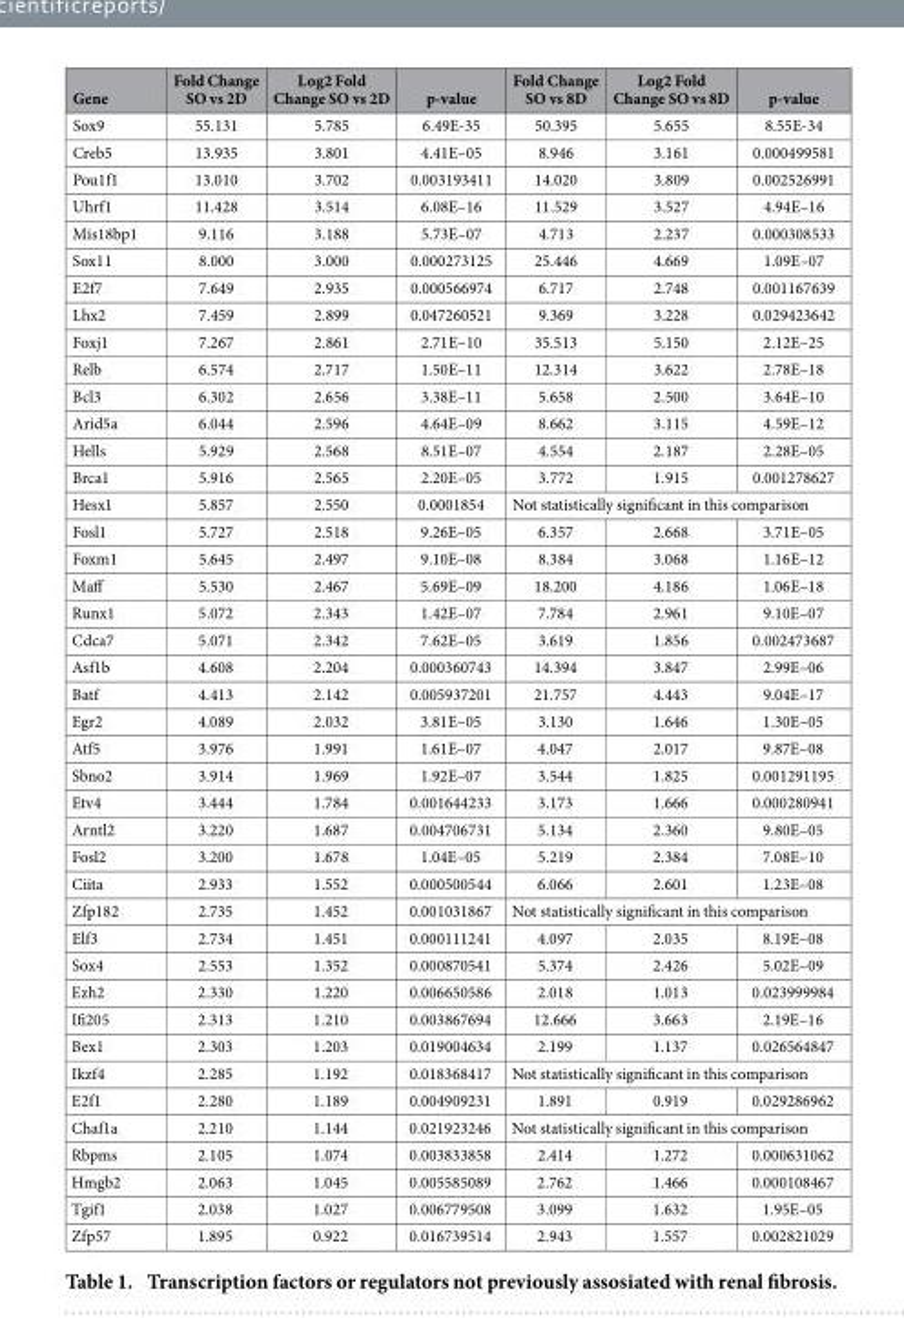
<table><thead><tr><td>Gene</td><td>Fold Change SO vs 2D</td><td>Log2 Fold Change SO vs 2D</td><td>p-value</td><td>Fold Change SO vs 8D</td><td>Log2 Fold Change SO vs 8D</td><td>p-value</td></tr></thead><tbody><tr><td>Sox9</td><td>55.131</td><td>5.785</td><td>6.49E-35</td><td>50.395</td><td>5.655</td><td>8.55E-34</td></tr><tr><td>Creb5</td><td>13.935</td><td>3.801</td><td>4.41E–05</td><td>8.946</td><td>3.161</td><td>0.000499581</td></tr><tr><td>Pou1f1</td><td>13.010</td><td>3.702</td><td>0.003193411</td><td>14.020</td><td>3.809</td><td>0.002526991</td></tr><tr><td>Uhrf1</td><td>11.428</td><td>3.514</td><td>6.08E–16</td><td>11.529</td><td>3.527</td><td>4.94E–16</td></tr><tr><td>Mis18bp1</td><td>9.116</td><td>3.188</td><td>5.73E–07</td><td>4.713</td><td>2.237</td><td>0.000308533</td></tr><tr><td>Sox11</td><td>8.000</td><td>3.000</td><td>0.000273125</td><td>25.446</td><td>4.669</td><td>1.09E–07</td></tr><tr><td>E2f7</td><td>7.649</td><td>2.935</td><td>0.000566974</td><td>6.717</td><td>2.748</td><td>0.001167639</td></tr><tr><td>Lhx2</td><td>7.459</td><td>2.899</td><td>0.047260521</td><td>9.369</td><td>3.228</td><td>0.029423642</td></tr><tr><td>Foxj1</td><td>7.267</td><td>2.861</td><td>2.71E–10</td><td>35.513</td><td>5.150</td><td>2.12E–25</td></tr><tr><td>Relb</td><td>6.574</td><td>2.717</td><td>1.50E–11</td><td>12.314</td><td>3.622</td><td>2.78E–18</td></tr><tr><td>Bcl3</td><td>6.302</td><td>2.656</td><td>3.38E–11</td><td>5.658</td><td>2.500</td><td>3.64E–10</td></tr><tr><td>Arid5a</td><td>6.044</td><td>2.596</td><td>4.64E–09</td><td>8.662</td><td>3.115</td><td>4.59E–12</td></tr><tr><td>Hells</td><td>5.929</td><td>2.568</td><td>8.51E–07</td><td>4.554</td><td>2.187</td><td>2.28E–05</td></tr><tr><td>Brca1</td><td>5.916</td><td>2.565</td><td>2.20E–05</td><td>3.772</td><td>1.915</td><td>0.001278627</td></tr><tr><td>Hesx1</td><td>5.857</td><td>2.550</td><td>0.0001854</td><td colspan="3">Not statistically significant in this comparison</td></tr><tr><td>Fosl1</td><td>5.727</td><td>2.518</td><td>9.26E–05</td><td>6.357</td><td>2.668</td><td>3.71E–05</td></tr><tr><td>Foxm1</td><td>5.645</td><td>2.497</td><td>9.10E–08</td><td>8.384</td><td>3.068</td><td>1.16E–12</td></tr><tr><td>Maff</td><td>5.530</td><td>2.467</td><td>5.69E–09</td><td>18.200</td><td>4.186</td><td>1.06E–18</td></tr><tr><td>Runx1</td><td>5.072</td><td>2.343</td><td>1.42E–07</td><td>7.784</td><td>2.961</td><td>9.10E–07</td></tr><tr><td>Cdca7</td><td>5.071</td><td>2.342</td><td>7.62E–05</td><td>3.619</td><td>1.856</td><td>0.002473687</td></tr><tr><td>Asf1b</td><td>4.608</td><td>2.204</td><td>0.000360743</td><td>14.394</td><td>3.847</td><td>2.99E–06</td></tr><tr><td>Batf</td><td>4.413</td><td>2.142</td><td>0.005937201</td><td>21.757</td><td>4.443</td><td>9.04E–17</td></tr><tr><td>Egr2</td><td>4.089</td><td>2.032</td><td>3.81E–05</td><td>3.130</td><td>1.646</td><td>1.30E–05</td></tr><tr><td>Atf5</td><td>3.976</td><td>1.991</td><td>1.61E–07</td><td>4.047</td><td>2.017</td><td>9.87E–08</td></tr><tr><td>Sbno2</td><td>3.914</td><td>1.969</td><td>1.92E–07</td><td>3.544</td><td>1.825</td><td>0.001291195</td></tr><tr><td>Etv4</td><td>3.444</td><td>1.784</td><td>0.001644233</td><td>3.173</td><td>1.666</td><td>0.000280941</td></tr><tr><td>Arntl2</td><td>3.220</td><td>1.687</td><td>0.004706731</td><td>5.134</td><td>2.360</td><td>9.80E–05</td></tr><tr><td>Fosl2</td><td>3.200</td><td>1.678</td><td>1.04E–05</td><td>5.219</td><td>2.384</td><td>7.08E–10</td></tr><tr><td>Ciita</td><td>2.933</td><td>1.552</td><td>0.000500544</td><td>6.066</td><td>2.601</td><td>1.23E–08</td></tr><tr><td>Zfp182</td><td>2.735</td><td>1.452</td><td>0.001031867</td><td colspan="3">Not statistically significant in this comparison</td></tr><tr><td>Elf3</td><td>2.734</td><td>1.451</td><td>0.000111241</td><td>4.097</td><td>2.035</td><td>8.19E–08</td></tr><tr><td>Sox4</td><td>2.553</td><td>1.352</td><td>0.000870541</td><td>5.374</td><td>2.426</td><td>5.02E–09</td></tr><tr><td>Ezh2</td><td>2.330</td><td>1.220</td><td>0.006650586</td><td>2.018</td><td>1.013</td><td>0.023999984</td></tr><tr><td>Ifi205</td><td>2.313</td><td>1.210</td><td>0.003867694</td><td>12.666</td><td>3.663</td><td>2.19E–16</td></tr><tr><td>Bex1</td><td>2.303</td><td>1.203</td><td>0.019004634</td><td>2.199</td><td>1.137</td><td>0.026564847</td></tr><tr><td>Ikzf4</td><td>2.285</td><td>1.192</td><td>0.018368417</td><td colspan="3">Not statistically significant in this comparison</td></tr><tr><td>E2f1</td><td>2.280</td><td>1.189</td><td>0.004909231</td><td>1.891</td><td>0.919</td><td>0.029286962</td></tr><tr><td>Chaf1a</td><td>2.210</td><td>1.144</td><td>0.021923246</td><td colspan="3">Not statistically significant in this comparison</td></tr><tr><td>Rbpms</td><td>2.105</td><td>1.074</td><td>0.003833858</td><td>2.414</td><td>1.272</td><td>0.000631062</td></tr><tr><td>Hmgb2</td><td>2.063</td><td>1.045</td><td>0.005585089</td><td>2.762</td><td>1.466</td><td>0.000108467</td></tr><tr><td>Tgif1</td><td>2.038</td><td>1.027</td><td>0.006779508</td><td>3.099</td><td>1.632</td><td>1.95E–05</td></tr><tr><td>Zfp57</td><td>1.895</td><td>0.922</td><td>0.016739514</td><td>2.943</td><td>1.557</td><td>0.002821029</td></tr></tbody></table>